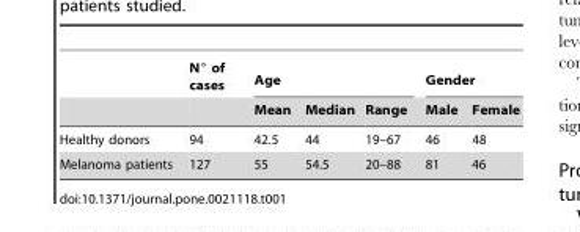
<table><thead><tr><td rowspan="2"></td><td rowspan="2">N° of cases</td><td colspan="3">Age</td><td colspan="2">Gender</td></tr><tr><td>Mean</td><td>Median</td><td>Range</td><td>Male</td><td>Female</td></tr></thead><tbody><tr><td>Healthy donors</td><td>94</td><td>42.5</td><td>44</td><td>19–67</td><td>46</td><td>48</td></tr><tr><td>Melanoma patients</td><td>127</td><td>55</td><td>54.5</td><td>20–88</td><td>81</td><td>46</td></tr></tbody></table>